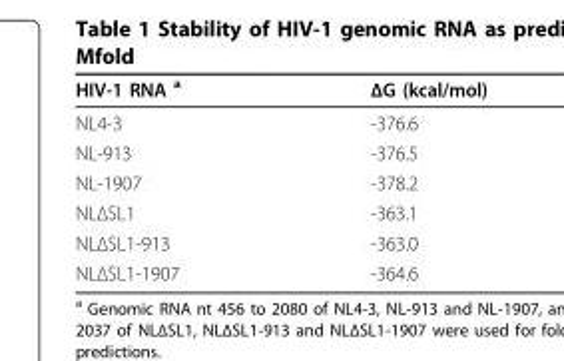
<table><thead><tr><td>HIV-1 RNA <sup>a</sup></td><td>ΔG (kcal/mol)</td></tr></thead><tbody><tr><td>NL4-3</td><td>-376.6</td></tr><tr><td>NL-913</td><td>-376.5</td></tr><tr><td>NL-1907</td><td>-378.2</td></tr><tr><td>NLΔSL1</td><td>-363.1</td></tr><tr><td>NLΔSL1-913</td><td>-363.0</td></tr><tr><td>NLΔSL1-1907</td><td>-364.6</td></tr></tbody></table>